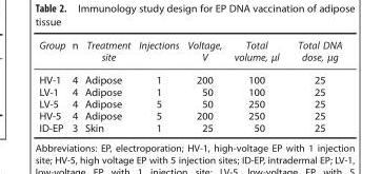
<table><thead><tr><td>Group</td><td>n</td><td>Treatment site</td><td>Injections</td><td>Voltage, V</td><td>Total volume, μl</td><td>Total DNA dose, μg</td></tr></thead><tbody><tr><td>HV-1</td><td>4</td><td>Adipose</td><td>1</td><td>200</td><td>100</td><td>25</td></tr><tr><td>LV-1</td><td>4</td><td>Adipose</td><td>1</td><td>50</td><td>100</td><td>25</td></tr><tr><td>LV-5</td><td>4</td><td>Adipose</td><td>5</td><td>50</td><td>250</td><td>25</td></tr><tr><td>HV-5</td><td>4</td><td>Adipose</td><td>5</td><td>200</td><td>250</td><td>25</td></tr><tr><td>ID-EP</td><td>3</td><td>Skin</td><td>1</td><td>25</td><td>50</td><td>25</td></tr></tbody></table>